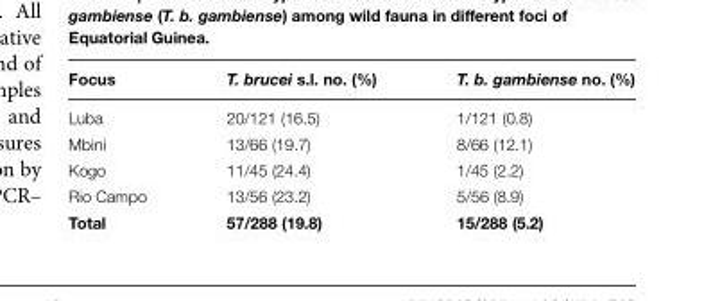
<table><thead><tr><td>Focus</td><td>T. brucei s.l. no. (%)</td><td>T. b. gambiense no. (%)</td></tr></thead><tbody><tr><td>Luba</td><td>20/121 (16.5)</td><td>1/121 (0.8)</td></tr><tr><td>Mbini</td><td>13/66 (19.7)</td><td>8/66 (12.1)</td></tr><tr><td>Kogo</td><td>11/45 (24.4)</td><td>1/45 (2.2)</td></tr><tr><td>Rio Campo</td><td>13/56 (23.2)</td><td>5/56 (8.9)</td></tr><tr><td>Total</td><td>57/288 (19.8)</td><td>15/288 (5.2)</td></tr></tbody></table>